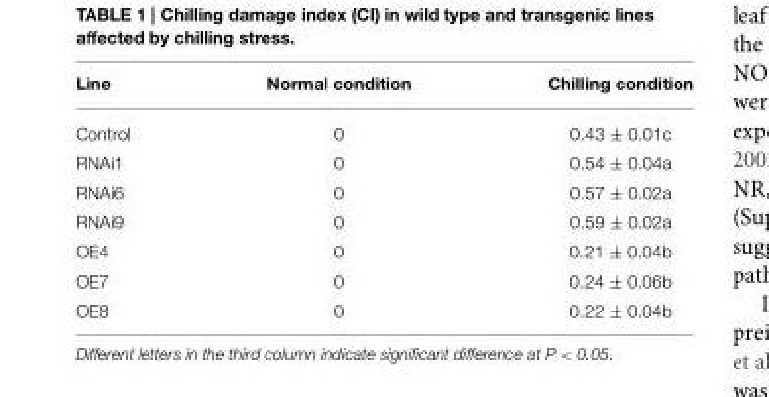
<table><thead><tr><td>Line</td><td>Normal condition</td><td>Chilling condition</td></tr></thead><tbody><tr><td>Control</td><td>0</td><td>0.43 ± 0.01c</td></tr><tr><td>RNAi1</td><td>0</td><td>0.54 ± 0.04a</td></tr><tr><td>RNAi6</td><td>0</td><td>0.57 ± 0.02a</td></tr><tr><td>RNAi9</td><td>0</td><td>0.59 ± 0.02a</td></tr><tr><td>OE4</td><td>0</td><td>0.21 ± 0.04b</td></tr><tr><td>OE7</td><td>0</td><td>0.24 ± 0.06b</td></tr><tr><td>OE8</td><td>0</td><td>0.22 ± 0.04b</td></tr></tbody></table>